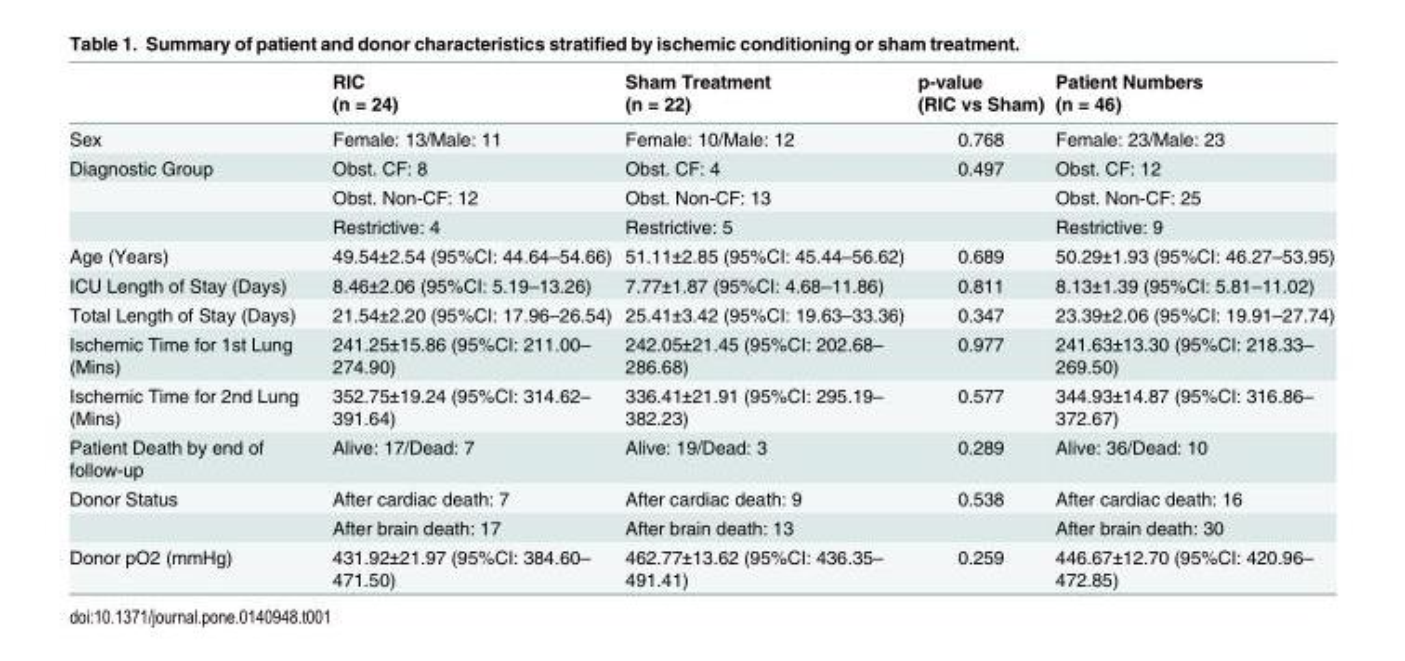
<table><thead><tr><td></td><td>RIC (n = 24)</td><td>Sham Treatment (n = 22)</td><td>p-value (RIC vs Sham)</td><td>Patient Numbers (n = 46)</td></tr></thead><tbody><tr><td>Sex</td><td>Female: 13/Male: 11</td><td>Female: 10/Male: 12</td><td>0.768</td><td>Female: 23/Male: 23</td></tr><tr><td rowspan="3">Diagnostic Group</td><td>Obst. CF: 8</td><td>Obst. CF: 4</td><td>0.497</td><td>Obst. CF: 12</td></tr><tr><td>Obst. Non-CF: 12</td><td>Obst. Non-CF: 13</td><td></td><td>Obst. Non-CF: 25</td></tr><tr><td>Restrictive: 4</td><td>Restrictive: 5</td><td></td><td>Restrictive: 9</td></tr><tr><td>Age (Years)</td><td>49.54±2.54 (95%CI: 44.64–54.66)</td><td>51.11±2.85 (95%CI: 45.44–56.62)</td><td>0.689</td><td>50.29±1.93 (95%CI: 46.27–53.95)</td></tr><tr><td>ICU Length of Stay (Days)</td><td>8.46±2.06 (95%CI: 5.19–13.26)</td><td>7.77±1.87 (95%CI: 4.68–11.86)</td><td>0.811</td><td>8.13±1.39 (95%CI: 5.81–11.02)</td></tr><tr><td>Total Length of Stay (Days)</td><td>21.54±2.20 (95%CI: 17.96–26.54)</td><td>25.41±3.42 (95%CI: 19.63–33.36)</td><td>0.347</td><td>23.39±2.06 (95%CI: 19.91–27.74)</td></tr><tr><td>Ischemic Time for 1st Lung (Mins)</td><td>241.25±15.86 (95%CI: 211.00– 274.90)</td><td>242.05±21.45 (95%CI: 202.68– 286.68)</td><td>0.977</td><td>241.63±13.30 (95%CI: 218.33– 269.50)</td></tr><tr><td>Ischemic Time for 2nd Lung (Mins)</td><td>352.75±19.24 (95%CI: 314.62– 391.64)</td><td>336.41±21.91 (95%CI: 295.19– 382.23)</td><td>0.577</td><td>344.93±14.87 (95%CI: 316.86– 372.67)</td></tr><tr><td>Patient Death by end of follow-up</td><td>Alive: 17/Dead: 7</td><td>Alive: 19/Dead: 3</td><td>0.289</td><td>Alive: 36/Dead: 10</td></tr><tr><td rowspan="2">Donor Status</td><td>After cardiac death: 7</td><td>After cardiac death: 9</td><td>0.538</td><td>After cardiac death: 16</td></tr><tr><td>After brain death: 17</td><td>After brain death: 13</td><td></td><td>After brain death: 30</td></tr><tr><td>Donor pO2 (mmHg)</td><td>431.92±21.97 (95%CI: 384.60– 471.50)</td><td>462.77±13.62 (95%CI: 436.35– 491.41)</td><td>0.259</td><td>446.67±12.70 (95%CI: 420.96– 472.85)</td></tr></tbody></table>